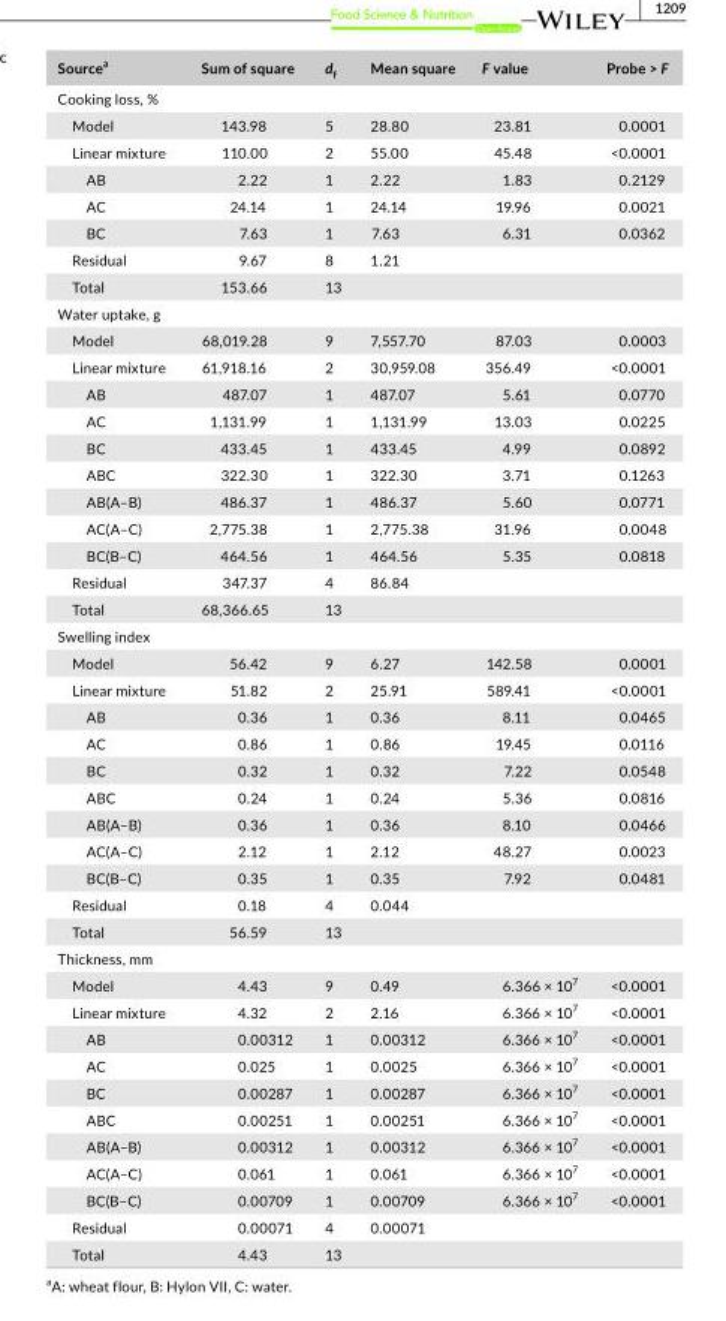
<table><thead><tr><td>Source<sup>a</sup></td><td>Sum of square</td><td>d<sub>f</sub></td><td>Mean square</td><td>F value</td><td>Probe &gt; F</td></tr></thead><tbody><tr><td colspan="6">Cooking loss, %</td></tr><tr><td>Model</td><td>143.98</td><td>5</td><td>28.80</td><td>23.81</td><td>0.0001</td></tr><tr><td>Linear mixture</td><td>110.00</td><td>2</td><td>55.00</td><td>45.48</td><td>&lt;0.0001</td></tr><tr><td>AB</td><td>2.22</td><td>1</td><td>2.22</td><td>1.83</td><td>0.2129</td></tr><tr><td>AC</td><td>24.14</td><td>1</td><td>24.14</td><td>19.96</td><td>0.0021</td></tr><tr><td>BC</td><td>7.63</td><td>1</td><td>7.63</td><td>6.31</td><td>0.0362</td></tr><tr><td>Residual</td><td>9.67</td><td>8</td><td>1.21</td><td></td><td></td></tr><tr><td>Total</td><td>153.66</td><td>13</td><td></td><td></td><td></td></tr><tr><td colspan="6">Water uptake, g</td></tr><tr><td>Model</td><td>68,019.28</td><td>9</td><td>7,557.70</td><td>87.03</td><td>0.0003</td></tr><tr><td>Linear mixture</td><td>61,918.16</td><td>2</td><td>30,959.08</td><td>356.49</td><td>&lt;0.0001</td></tr><tr><td>AB</td><td>487.07</td><td>1</td><td>487.07</td><td>5.61</td><td>0.0770</td></tr><tr><td>AC</td><td>1,131.99</td><td>1</td><td>1,131.99</td><td>13.03</td><td>0.0225</td></tr><tr><td>BC</td><td>433.45</td><td>1</td><td>433.45</td><td>4.99</td><td>0.0892</td></tr><tr><td>ABC</td><td>322.30</td><td>1</td><td>322.30</td><td>3.71</td><td>0.1263</td></tr><tr><td>AB(A–B)</td><td>486.37</td><td>1</td><td>486.37</td><td>5.60</td><td>0.0771</td></tr><tr><td>AC(A–C)</td><td>2,775.38</td><td>1</td><td>2,775.38</td><td>31.96</td><td>0.0048</td></tr><tr><td>BC(B–C)</td><td>464.56</td><td>1</td><td>464.56</td><td>5.35</td><td>0.0818</td></tr><tr><td>Residual</td><td>347.37</td><td>4</td><td>86.84</td><td></td><td></td></tr><tr><td>Total</td><td>68,366.65</td><td>13</td><td></td><td></td><td></td></tr><tr><td colspan="6">Swelling index</td></tr><tr><td>Model</td><td>56.42</td><td>9</td><td>6.27</td><td>142.58</td><td>0.0001</td></tr><tr><td>Linear mixture</td><td>51.82</td><td>2</td><td>25.91</td><td>589.41</td><td>&lt;0.0001</td></tr><tr><td>AB</td><td>0.36</td><td>1</td><td>0.36</td><td>8.11</td><td>0.0465</td></tr><tr><td>AC</td><td>0.86</td><td>1</td><td>0.86</td><td>19.45</td><td>0.0116</td></tr><tr><td>BC</td><td>0.32</td><td>1</td><td>0.32</td><td>7.22</td><td>0.0548</td></tr><tr><td>ABC</td><td>0.24</td><td>1</td><td>0.24</td><td>5.36</td><td>0.0816</td></tr><tr><td>AB(A–B)</td><td>0.36</td><td>1</td><td>0.36</td><td>8.10</td><td>0.0466</td></tr><tr><td>AC(A–C)</td><td>2.12</td><td>1</td><td>2.12</td><td>48.27</td><td>0.0023</td></tr><tr><td>BC(B–C)</td><td>0.35</td><td>1</td><td>0.35</td><td>7.92</td><td>0.0481</td></tr><tr><td>Residual</td><td>0.18</td><td>4</td><td>0.044</td><td></td><td></td></tr><tr><td>Total</td><td>56.59</td><td>13</td><td></td><td></td><td></td></tr><tr><td colspan="6">Thickness, mm</td></tr><tr><td>Model</td><td>4.43</td><td>9</td><td>0.49</td><td>6.366 × 10<sup>7</sup></td><td>&lt;0.0001</td></tr><tr><td>Linear mixture</td><td>4.32</td><td>2</td><td>2.16</td><td>6.366 × 10<sup>7</sup></td><td>&lt;0.0001</td></tr><tr><td>AB</td><td>0.00312</td><td>1</td><td>0.00312</td><td>6.366 × 10<sup>7</sup></td><td>&lt;0.0001</td></tr><tr><td>AC</td><td>0.025</td><td>1</td><td>0.0025</td><td>6.366 × 10<sup>7</sup></td><td>&lt;0.0001</td></tr><tr><td>BC</td><td>0.00287</td><td>1</td><td>0.00287</td><td>6.366 × 10<sup>7</sup></td><td>&lt;0.0001</td></tr><tr><td>ABC</td><td>0.00251</td><td>1</td><td>0.00251</td><td>6.366 × 10<sup>7</sup></td><td>&lt;0.0001</td></tr><tr><td>AB(A–B)</td><td>0.00312</td><td>1</td><td>0.00312</td><td>6.366 × 10<sup>7</sup></td><td>&lt;0.0001</td></tr><tr><td>AC(A–C)</td><td>0.061</td><td>1</td><td>0.061</td><td>6.366 × 10<sup>7</sup></td><td>&lt;0.0001</td></tr><tr><td>BC(B–C)</td><td>0.00709</td><td>1</td><td>0.00709</td><td>6.366 × 10<sup>7</sup></td><td>&lt;0.0001</td></tr><tr><td>Residual</td><td>0.00071</td><td>4</td><td>0.00071</td><td></td><td></td></tr><tr><td>Total</td><td>4.43</td><td>13</td><td></td><td></td><td></td></tr></tbody></table>